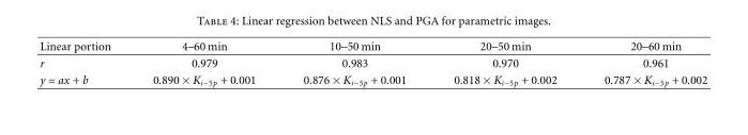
<table><thead><tr><td>Linear portion</td><td>4–60 min</td><td>10–50 min</td><td>20–50 min</td><td>20–60 min</td></tr></thead><tbody><tr><td>r</td><td>0.979</td><td>0.983</td><td>0.970</td><td>0.961</td></tr><tr><td>y = ax + b</td><td>0.890 × K<sub>i−5p</sub> + 0.001</td><td>0.876 × K<sub>i−5p</sub> + 0.001</td><td>0.818 × K<sub>i−5p</sub> + 0.002</td><td>0.787 × K<sub>i−5p</sub> + 0.002</td></tr></tbody></table>